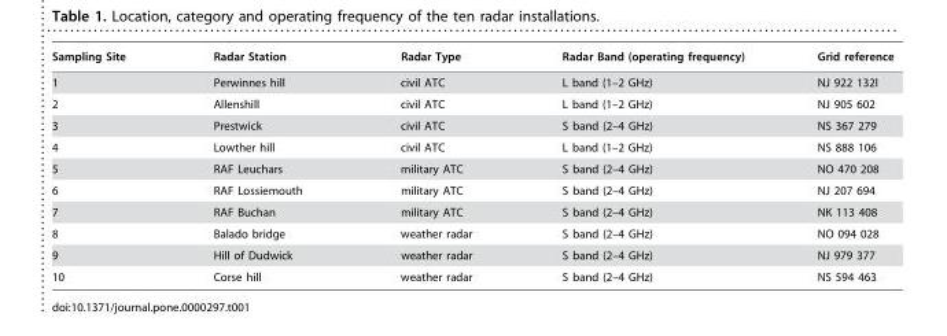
<table><thead><tr><td>Sampling Site</td><td>Radar Station</td><td>Radar Type</td><td>Radar Band (operating frequency)</td><td>Grid reference</td></tr></thead><tbody><tr><td>1</td><td>Perwinnes hill</td><td>civil ATC</td><td>L band (1–2 GHz)</td><td>NJ 922 132l</td></tr><tr><td>2</td><td>Allenshill</td><td>civil ATC</td><td>L band (1–2 GHz)</td><td>NJ 905 602</td></tr><tr><td>3</td><td>Prestwick</td><td>civil ATC</td><td>S band (2–4 GHz)</td><td>NS 367 279</td></tr><tr><td>4</td><td>Lowther hill</td><td>civil ATC</td><td>L band (1–2 GHz)</td><td>NS 888 106</td></tr><tr><td>5</td><td>RAF Leuchars</td><td>military ATC</td><td>S band (2–4 GHz)</td><td>NO 470 208</td></tr><tr><td>6</td><td>RAF Lossiemouth</td><td>military ATC</td><td>S band (2–4 GHz)</td><td>NJ 207 694</td></tr><tr><td>7</td><td>RAF Buchan</td><td>military ATC</td><td>S band (2–4 GHz)</td><td>NK 113 408</td></tr><tr><td>8</td><td>Balado bridge</td><td>weather radar</td><td>S band (2–4 GHz)</td><td>NO 094 028</td></tr><tr><td>9</td><td>Hill of Dudwick</td><td>weather radar</td><td>S band (2–4 GHz)</td><td>NJ 979 377</td></tr><tr><td>10</td><td>Corse hill</td><td>weather radar</td><td>S band (2–4 GHz)</td><td>NS 594 463</td></tr></tbody></table>